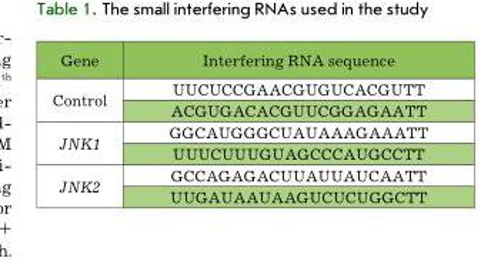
<table><thead><tr><td>Gene</td><td>Interfering RNA sequence</td></tr></thead><tbody><tr><td rowspan="2">Control</td><td>UUCUCCGAACGUGUCACGUTT</td></tr><tr><td>ACGUGACACGUUCGGAGAATT</td></tr><tr><td rowspan="2">JNK1</td><td>GGCAUGGGCUAUAAAGAAATT</td></tr><tr><td>UUUCUUUGUAGCCCAUGCCTT</td></tr><tr><td rowspan="2">JNK2</td><td>GCCAGAGACUUAUUAUCAATT</td></tr><tr><td>UUGAUAAUAAGUCUCUGGCTT</td></tr></tbody></table>